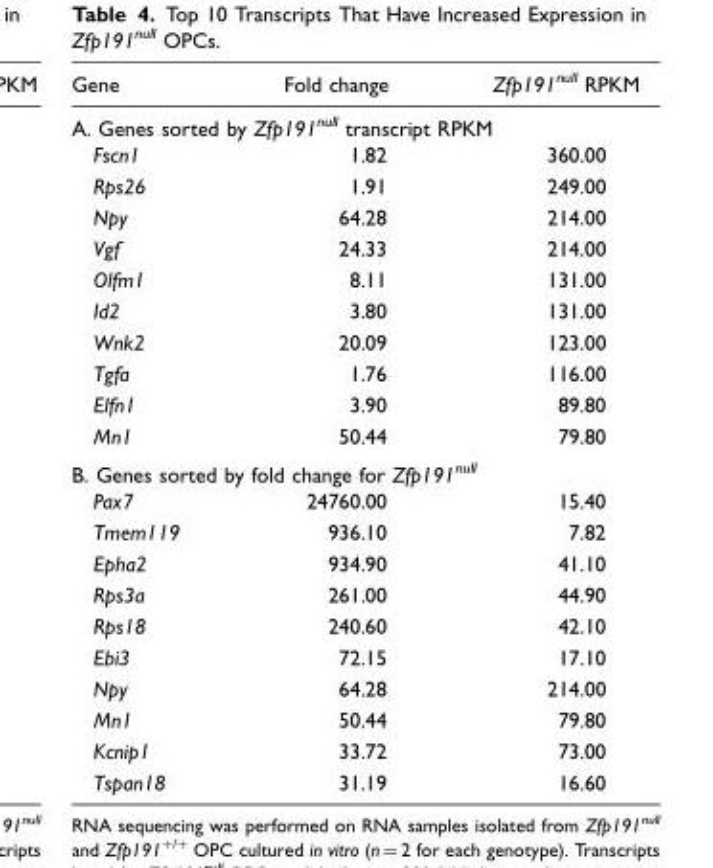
<table><thead><tr><td>Gene</td><td>Fold change</td><td>Zfp191<sup>null</sup> RPKM</td></tr></thead><tbody><tr><td colspan="3">A. Genes sorted by Zfp191<sup>null</sup> transcript RPKM</td></tr><tr><td>Fscn1</td><td>1.82</td><td>360.00</td></tr><tr><td>Rps26</td><td>1.91</td><td>249.00</td></tr><tr><td>Npy</td><td>64.28</td><td>214.00</td></tr><tr><td>Vgf</td><td>24.33</td><td>214.00</td></tr><tr><td>Olfm1</td><td>8.11</td><td>131.00</td></tr><tr><td>Id2</td><td>3.80</td><td>131.00</td></tr><tr><td>Wnk2</td><td>20.09</td><td>123.00</td></tr><tr><td>Tgfa</td><td>1.76</td><td>116.00</td></tr><tr><td>Elfn1</td><td>3.90</td><td>89.80</td></tr><tr><td>Mn1</td><td>50.44</td><td>79.80</td></tr><tr><td colspan="3">B. Genes sorted by fold change for Zfp191<sup>null</sup></td></tr><tr><td>Pax7</td><td>24760.00</td><td>15.40</td></tr><tr><td>Tmem119</td><td>936.10</td><td>7.82</td></tr><tr><td>Epha2</td><td>934.90</td><td>41.10</td></tr><tr><td>Rps3a</td><td>261.00</td><td>44.90</td></tr><tr><td>Rps18</td><td>240.60</td><td>42.10</td></tr><tr><td>Ebi3</td><td>72.15</td><td>17.10</td></tr><tr><td>Npy</td><td>64.28</td><td>214.00</td></tr><tr><td>Mn1</td><td>50.44</td><td>79.80</td></tr><tr><td>Kcnip1</td><td>33.72</td><td>73.00</td></tr><tr><td>Tspan18</td><td>31.19</td><td>16.60</td></tr></tbody></table>